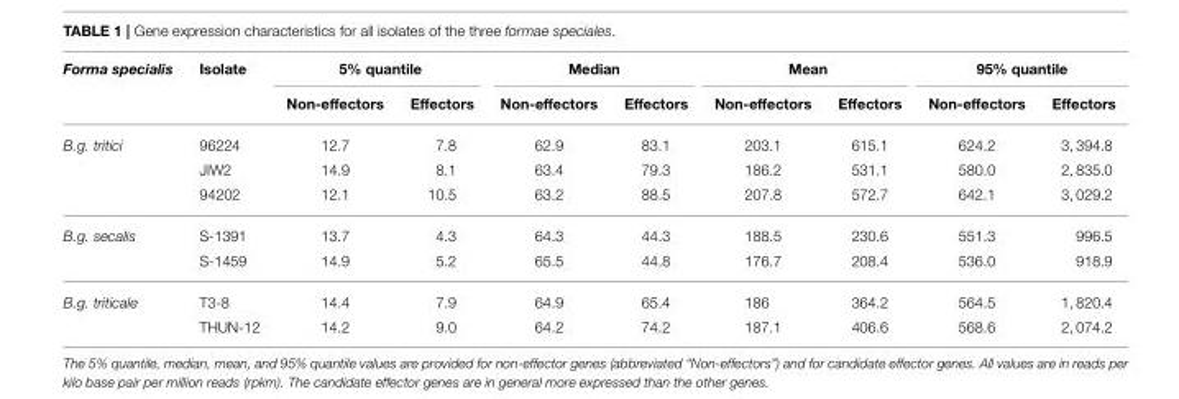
<table><thead><tr><td rowspan="2">Forma specialis</td><td rowspan="2">Isolate</td><td colspan="2">5% quantile</td><td colspan="2">Median</td><td colspan="2">Mean</td><td colspan="2">95% quantile</td></tr><tr><td>Non-effectors</td><td>Effectors</td><td>Non-effectors</td><td>Effectors</td><td>Non-effectors</td><td>Effectors</td><td>Non-effectors</td><td>Effectors</td></tr></thead><tbody><tr><td rowspan="3">B.g. tritici</td><td>96224</td><td>12.7</td><td>7.8</td><td>62.9</td><td>83.1</td><td>203.1</td><td>615.1</td><td>624.2</td><td>3, 394.8</td></tr><tr><td>JIW2</td><td>14.9</td><td>8.1</td><td>63.4</td><td>79.3</td><td>186.2</td><td>531.1</td><td>580.0</td><td>2, 835.0</td></tr><tr><td>94202</td><td>12.1</td><td>10.5</td><td>63.2</td><td>88.5</td><td>207.8</td><td>572.7</td><td>642.1</td><td>3, 029.2</td></tr><tr><td rowspan="2">B.g. secalis</td><td>S-1391</td><td>13.7</td><td>4.3</td><td>64.3</td><td>44.3</td><td>188.5</td><td>230.6</td><td>551.3</td><td>996.5</td></tr><tr><td>S-1459</td><td>14.9</td><td>5.2</td><td>65.5</td><td>44.8</td><td>176.7</td><td>208.4</td><td>536.0</td><td>918.9</td></tr><tr><td rowspan="2">B.g. triticale</td><td>T3-8</td><td>14.4</td><td>7.9</td><td>64.9</td><td>65.4</td><td>186</td><td>364.2</td><td>564.5</td><td>1, 820.4</td></tr><tr><td>THUN-12</td><td>14.2</td><td>9.0</td><td>64.2</td><td>74.2</td><td>187.1</td><td>406.6</td><td>568.6</td><td>2, 074.2</td></tr></tbody></table>